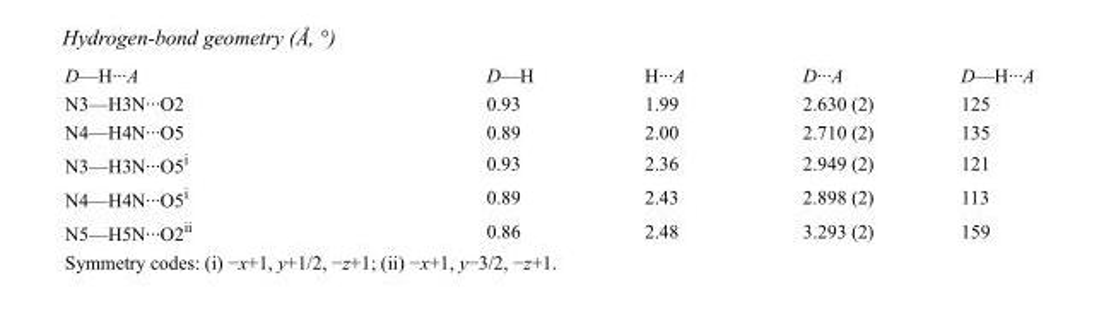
<table><tbody><tr><td>D—H···A</td><td>D—H</td><td>H···A</td><td>D···A</td><td>D—H···A</td></tr><tr><td>N3—H3N···O2</td><td>0.93</td><td>1.99</td><td>2.630 (2)</td><td>125</td></tr><tr><td>N4—H4N···O5</td><td>0.89</td><td>2.00</td><td>2.710 (2)</td><td>135</td></tr><tr><td>N3—H3N···O5<sup>i</sup></td><td>0.93</td><td>2.36</td><td>2.949 (2)</td><td>121</td></tr><tr><td>N4—H4N···O5<sup>i</sup></td><td>0.89</td><td>2.43</td><td>2.898 (2)</td><td>113</td></tr><tr><td>N5—H5N···O2<sup>ii</sup></td><td>0.86</td><td>2.48</td><td>3.293 (2)</td><td>159</td></tr></tbody></table>